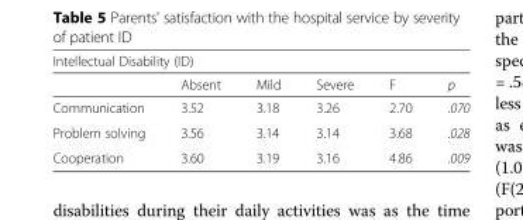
<table><thead><tr><td colspan="6">Intellectual Disability (ID)</td></tr><tr><td></td><td>Absent</td><td>Mild</td><td>Severe</td><td>F</td><td>p</td></tr></thead><tbody><tr><td>Communication</td><td>3.52</td><td>3.18</td><td>3.26</td><td>2.70</td><td>.070</td></tr><tr><td>Problem solving</td><td>3.56</td><td>3.14</td><td>3.14</td><td>3.68</td><td>.028</td></tr><tr><td>Cooperation</td><td>3.60</td><td>3.19</td><td>3.16</td><td>4.86</td><td>.009</td></tr></tbody></table>